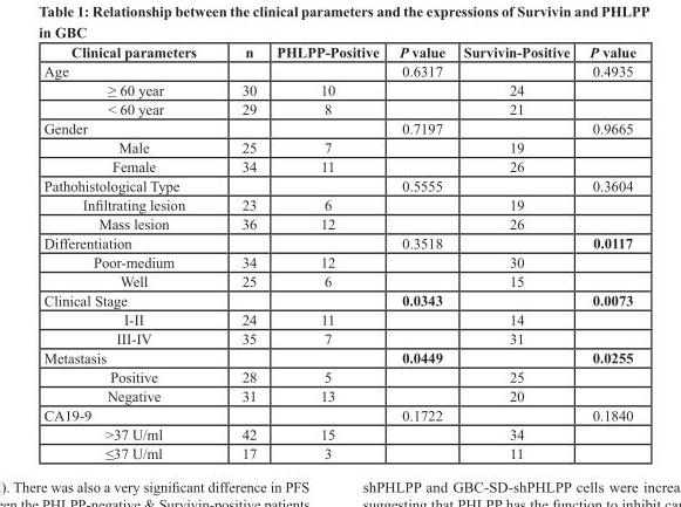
<table><thead><tr><td>Clinical parameters</td><td>n</td><td>PHLPP-Positive</td><td>P value</td><td>Survivin-Positive</td><td>P value</td></tr></thead><tbody><tr><td>Age</td><td></td><td></td><td>0.6317</td><td></td><td>0.4935</td></tr><tr><td>≥ 60 year</td><td>30</td><td>10</td><td></td><td>24</td><td></td></tr><tr><td>&lt; 60 year</td><td>29</td><td>8</td><td></td><td>21</td><td></td></tr><tr><td>Gender</td><td></td><td></td><td>0.7197</td><td></td><td>0.9665</td></tr><tr><td>Male</td><td>25</td><td>7</td><td></td><td>19</td><td></td></tr><tr><td>Female</td><td>34</td><td>11</td><td></td><td>26</td><td></td></tr><tr><td>Pathohistological Type</td><td></td><td></td><td>0.5555</td><td></td><td>0.3604</td></tr><tr><td>Infiltrating lesion</td><td>23</td><td>6</td><td></td><td>19</td><td></td></tr><tr><td>Mass lesion</td><td>36</td><td>12</td><td></td><td>26</td><td></td></tr><tr><td>Differentiation</td><td></td><td></td><td>0.3518</td><td></td><td>0.0117</td></tr><tr><td>Poor-medium</td><td>34</td><td>12</td><td></td><td>30</td><td></td></tr><tr><td>Well</td><td>25</td><td>6</td><td></td><td>15</td><td></td></tr><tr><td>Clinical Stage</td><td></td><td></td><td>0.0343</td><td></td><td>0.0073</td></tr><tr><td>I-II</td><td>24</td><td>11</td><td></td><td>14</td><td></td></tr><tr><td>III-IV</td><td>35</td><td>7</td><td></td><td>31</td><td></td></tr><tr><td>Metastasis</td><td></td><td></td><td>0.0449</td><td></td><td>0.0255</td></tr><tr><td>Positive</td><td>28</td><td>5</td><td></td><td>25</td><td></td></tr><tr><td>Negative</td><td>31</td><td>13</td><td></td><td>20</td><td></td></tr><tr><td>CA19-9</td><td></td><td></td><td>0.1722</td><td></td><td>0.1840</td></tr><tr><td>&gt;37 U/ml</td><td>42</td><td>15</td><td></td><td>34</td><td></td></tr><tr><td>≤37 U/ml</td><td>17</td><td>3</td><td></td><td>11</td><td></td></tr></tbody></table>